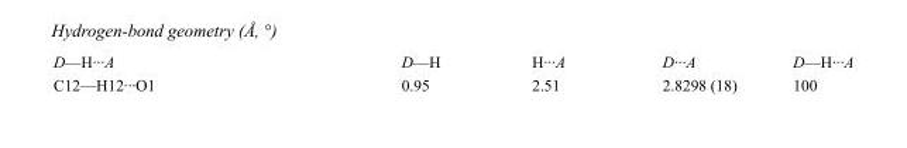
<table><tbody><tr><td>D—H···A</td><td>D—H</td><td>H···A</td><td>D···A</td><td>D—H···A</td></tr><tr><td>C12—H12···O1</td><td>0.95</td><td>2.51</td><td>2.8298 (18)</td><td>100</td></tr></tbody></table>